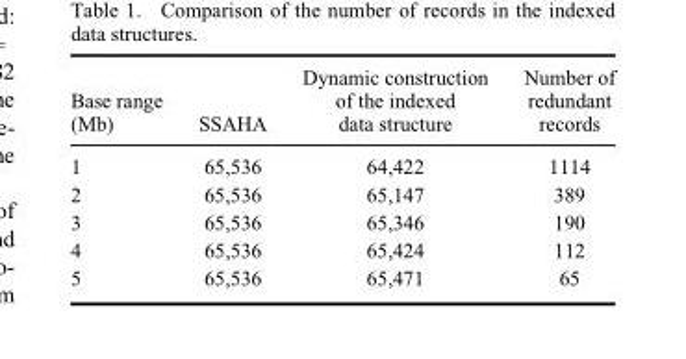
<table><thead><tr><td>Base range (Mb)</td><td>SSAHA</td><td>Dynamic construction of the indexed data structure</td><td>Number of redundant records</td></tr></thead><tbody><tr><td>1</td><td>65,536</td><td>64,422</td><td>1114</td></tr><tr><td>2</td><td>65,536</td><td>65,147</td><td>389</td></tr><tr><td>3</td><td>65,536</td><td>65,346</td><td>190</td></tr><tr><td>4</td><td>65,536</td><td>65,424</td><td>112</td></tr><tr><td>5</td><td>65,536</td><td>65,471</td><td>65</td></tr></tbody></table>